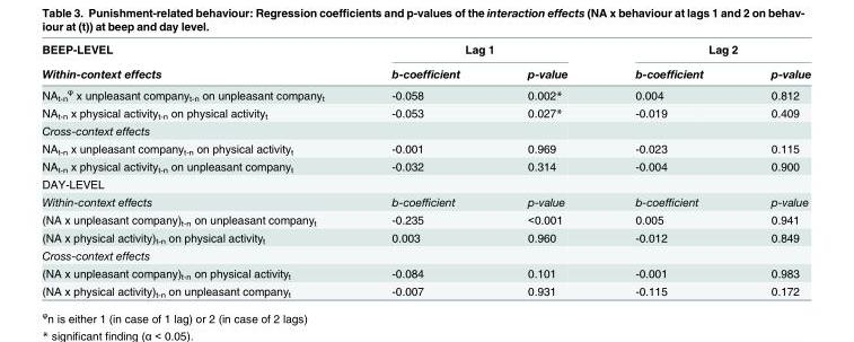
<table><thead><tr><td rowspan="2">BEEP-LEVEL Within-context effects</td><td colspan="2">Lag 1</td><td colspan="2">Lag 2</td></tr><tr><td>b-coefficient</td><td>p-value</td><td>b-coefficient</td><td>p-value</td></tr></thead><tbody><tr><td>NA<sub>t-n</sub> <sup>φ</sup> x unpleasant company<sub>t-n</sub> on unpleasant company<sub>t</sub></td><td>-0.058</td><td>0.002*</td><td>0.004</td><td>0.812</td></tr><tr><td>NA<sub>t-n</sub> x physical activity<sub>t-n</sub> on physical activity<sub>t</sub></td><td>-0.053</td><td>0.027*</td><td>-0.019</td><td>0.409</td></tr><tr><td colspan="5">Cross-context effects</td></tr><tr><td>NA<sub>t-n</sub> x unpleasant company<sub>t-n</sub> on physical activity<sub>t</sub></td><td>-0.001</td><td>0.969</td><td>-0.023</td><td>0.115</td></tr><tr><td>NA<sub>t-n</sub> x physical activity<sub>t-n</sub> on unpleasant company<sub>t</sub></td><td>-0.032</td><td>0.314</td><td>-0.004</td><td>0.900</td></tr><tr><td colspan="5">DAY-LEVEL</td></tr><tr><td>Within-context effects</td><td>b-coefficient</td><td>p-value</td><td>b-coefficient</td><td>p-value</td></tr><tr><td>(NA x unpleasant company)<sub>t-n</sub> on unpleasant company<sub>t</sub></td><td>-0.235</td><td>&lt;0.001</td><td>0.005</td><td>0.941</td></tr><tr><td>(NA x physical activity)<sub>t-n</sub> on physical activity<sub>t</sub></td><td>0.003</td><td>0.960</td><td>-0.012</td><td>0.849</td></tr><tr><td colspan="5">Cross-context effects</td></tr><tr><td>(NA x unpleasant company)<sub>t-n</sub> on physical activity<sub>t</sub></td><td>-0.084</td><td>0.101</td><td>-0.001</td><td>0.983</td></tr><tr><td>(NA x physical activity)<sub>t-n</sub> on unpleasant company<sub>t</sub></td><td>-0.007</td><td>0.931</td><td>-0.115</td><td>0.172</td></tr></tbody></table>